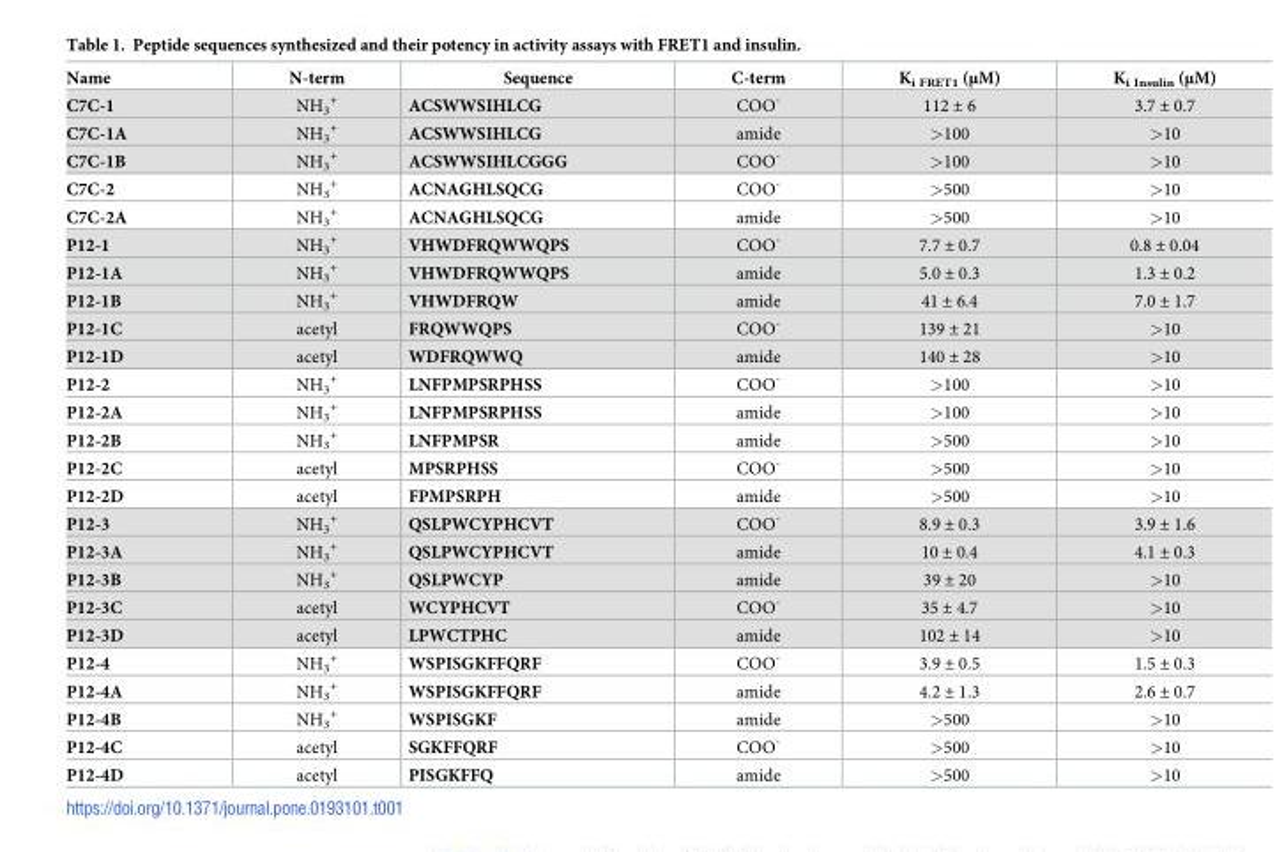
<table><thead><tr><td>Name</td><td>N-term</td><td>Sequence</td><td>C-term</td><td>K<sub>i FRET1</sub> (μM)</td><td>K<sub>i Insulin</sub> (μM)</td></tr></thead><tbody><tr><td>C7C-1</td><td>NH<sub>3</sub> <sup>+</sup></td><td>ACSWWSIHLCG</td><td>COO<sup>-</sup></td><td>112 ± 6</td><td>3.7 ± 0.7</td></tr><tr><td>C7C-1A</td><td>NH<sub>3</sub> <sup>+</sup></td><td>ACSWWSIHLCG</td><td>amide</td><td>&gt;100</td><td>&gt;10</td></tr><tr><td>C7C-1B</td><td>NH<sub>3</sub> <sup>+</sup></td><td>ACSWWSIHLCGGG</td><td>COO<sup>-</sup></td><td>&gt;100</td><td>&gt;10</td></tr><tr><td>C7C-2</td><td>NH<sub>3</sub> <sup>+</sup></td><td>ACNAGHLSQCG</td><td>COO<sup>-</sup></td><td>&gt;500</td><td>&gt;10</td></tr><tr><td>C7C-2A</td><td>NH<sub>3</sub> <sup>+</sup></td><td>ACNAGHLSQCG</td><td>amide</td><td>&gt;500</td><td>&gt;10</td></tr><tr><td>P12-1</td><td>NH<sub>3</sub> <sup>+</sup></td><td>VHWDFRQWWQPS</td><td>COO<sup>-</sup></td><td>7.7 ± 0.7</td><td>0.8 ± 0.04</td></tr><tr><td>P12-1A</td><td>NH<sub>3</sub> <sup>+</sup></td><td>VHWDFRQWWQPS</td><td>amide</td><td>5.0 ± 0.3</td><td>1.3 ± 0.2</td></tr><tr><td>P12-1B</td><td>NH<sub>3</sub> <sup>+</sup></td><td>VHWDFRQW</td><td>amide</td><td>41 ± 6.4</td><td>7.0 ± 1.7</td></tr><tr><td>P12-1C</td><td>acetyl</td><td>FRQWWQPS</td><td>COO<sup>-</sup></td><td>139 ± 21</td><td>&gt;10</td></tr><tr><td>P12-1D</td><td>acetyl</td><td>WDFRQWWQ</td><td>amide</td><td>140 ± 28</td><td>&gt;10</td></tr><tr><td>P12-2</td><td>NH<sub>3</sub> <sup>+</sup></td><td>LNFPMPSRPHSS</td><td>COO<sup>-</sup></td><td>&gt;100</td><td>&gt;10</td></tr><tr><td>P12-2A</td><td>NH<sub>3</sub> <sup>+</sup></td><td>LNFPMPSRPHSS</td><td>amide</td><td>&gt;100</td><td>&gt;10</td></tr><tr><td>P12-2B</td><td>NH<sub>3</sub> <sup>+</sup></td><td>LNFPMPSR</td><td>amide</td><td>&gt;500</td><td>&gt;10</td></tr><tr><td>P12-2C</td><td>acetyl</td><td>MPSRPHSS</td><td>COO<sup>-</sup></td><td>&gt;500</td><td>&gt;10</td></tr><tr><td>P12-2D</td><td>acetyl</td><td>FPMPSRPH</td><td>amide</td><td>&gt;500</td><td>&gt;10</td></tr><tr><td>P12-3</td><td>NH<sub>3</sub> <sup>+</sup></td><td>QSLPWCYPHCVT</td><td>COO<sup>-</sup></td><td>8.9 ± 0.3</td><td>3.9 ± 1.6</td></tr><tr><td>P12-3A</td><td>NH<sub>3</sub> <sup>+</sup></td><td>QSLPWCYPHCVT</td><td>amide</td><td>10 ± 0.4</td><td>4.1 ± 0.3</td></tr><tr><td>P12-3B</td><td>NH<sub>3</sub> <sup>+</sup></td><td>QSLPWCYP</td><td>amide</td><td>39 ± 20</td><td>&gt;10</td></tr><tr><td>P12-3C</td><td>acetyl</td><td>WCYPHCVT</td><td>COO<sup>-</sup></td><td>35 ± 4.7</td><td>&gt;10</td></tr><tr><td>P12-3D</td><td>acetyl</td><td>LPWCTPHC</td><td>amide</td><td>102 ± 14</td><td>&gt;10</td></tr><tr><td>P12-4</td><td>NH<sub>3</sub> <sup>+</sup></td><td>WSPISGKFFQRF</td><td>COO<sup>-</sup></td><td>3.9 ± 0.5</td><td>1.5 ± 0.3</td></tr><tr><td>P12-4A</td><td>NH<sub>3</sub> <sup>+</sup></td><td>WSPISGKFFQRF</td><td>amide</td><td>4.2 ± 1.3</td><td>2.6 ± 0.7</td></tr><tr><td>P12-4B</td><td>NH<sub>3</sub> <sup>+</sup></td><td>WSPISGKF</td><td>amide</td><td>&gt;500</td><td>&gt;10</td></tr><tr><td>P12-4C</td><td>acetyl</td><td>SGKFFQRF</td><td>COO<sup>-</sup></td><td>&gt;500</td><td>&gt;10</td></tr><tr><td>P12-4D</td><td>acetyl</td><td>PISGKFFQ</td><td>amide</td><td>&gt;500</td><td>&gt;10</td></tr></tbody></table>